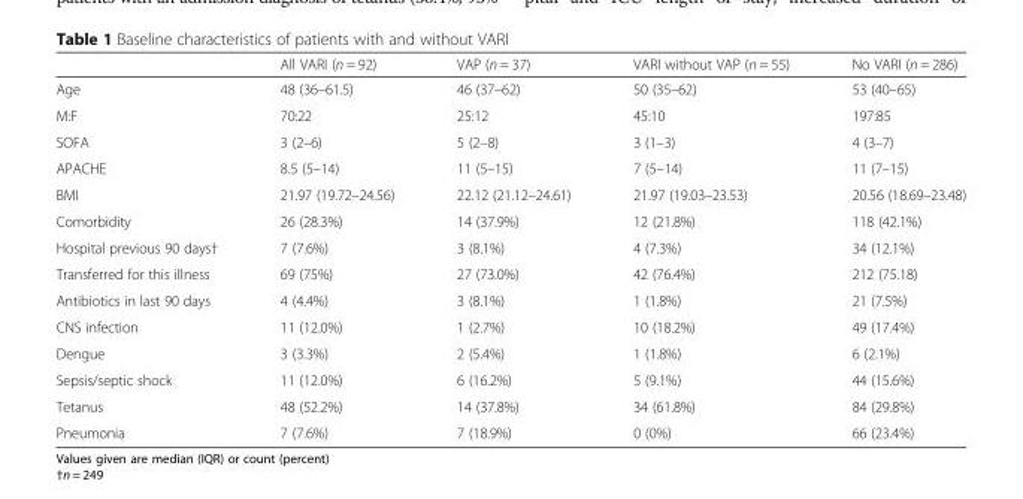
<table><thead><tr><td></td><td>All VARI (n = 92)</td><td>VAP (n = 37)</td><td>VARI without VAP (n = 55)</td><td>No VARI (n = 286)</td></tr></thead><tbody><tr><td>Age</td><td>48 (36–61.5)</td><td>46 (37–62)</td><td>50 (35–62)</td><td>53 (40–65)</td></tr><tr><td>M:F</td><td>70:22</td><td>25:12</td><td>45:10</td><td>197:85</td></tr><tr><td>SOFA</td><td>3 (2–6)</td><td>5 (2–8)</td><td>3 (1–3)</td><td>4 (3–7)</td></tr><tr><td>APACHE</td><td>8.5 (5–14)</td><td>11 (5–15)</td><td>7 (5–14)</td><td>11 (7–15)</td></tr><tr><td>BMI</td><td>21.97 (19.72–24.56)</td><td>22.12 (21.12–24.61)</td><td>21.97 (19.03–23.53)</td><td>20.56 (18.69–23.48)</td></tr><tr><td>Comorbidity</td><td>26 (28.3%)</td><td>14 (37.9%)</td><td>12 (21.8%)</td><td>118 (42.1%)</td></tr><tr><td>Hospital previous 90 days†</td><td>7 (7.6%)</td><td>3 (8.1%)</td><td>4 (7.3%)</td><td>34 (12.1%)</td></tr><tr><td>Transferred for this illness</td><td>69 (75%)</td><td>27 (73.0%)</td><td>42 (76.4%)</td><td>212 (75.18)</td></tr><tr><td>Antibiotics in last 90 days</td><td>4 (4.4%)</td><td>3 (8.1%)</td><td>1 (1.8%)</td><td>21 (7.5%)</td></tr><tr><td>CNS infection</td><td>11 (12.0%)</td><td>1 (2.7%)</td><td>10 (18.2%)</td><td>49 (17.4%)</td></tr><tr><td>Dengue</td><td>3 (3.3%)</td><td>2 (5.4%)</td><td>1 (1.8%)</td><td>6 (2.1%)</td></tr><tr><td>Sepsis/septic shock</td><td>11 (12.0%)</td><td>6 (16.2%)</td><td>5 (9.1%)</td><td>44 (15.6%)</td></tr><tr><td>Tetanus</td><td>48 (52.2%)</td><td>14 (37.8%)</td><td>34 (61.8%)</td><td>84 (29.8%)</td></tr><tr><td>Pneumonia</td><td>7 (7.6%)</td><td>7 (18.9%)</td><td>0 (0%)</td><td>66 (23.4%)</td></tr></tbody></table>